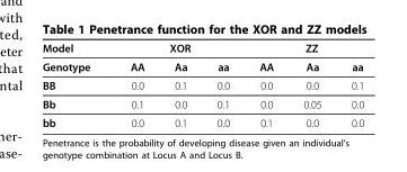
<table><thead><tr><td rowspan="2">Model Genotype</td><td colspan="3">XOR</td><td colspan="3">ZZ</td></tr><tr><td>AA</td><td>Aa</td><td>aa</td><td>AA</td><td>Aa</td><td>aa</td></tr></thead><tbody><tr><td>BB</td><td>0.0</td><td>0.1</td><td>0.0</td><td>0.0</td><td>0.0</td><td>0.1</td></tr><tr><td>Bb</td><td>0.1</td><td>0.0</td><td>0.1</td><td>0.0</td><td>0.05</td><td>0.0</td></tr><tr><td>bb</td><td>0.0</td><td>0.1</td><td>0.0</td><td>0.1</td><td>0.0</td><td>0.0</td></tr></tbody></table>